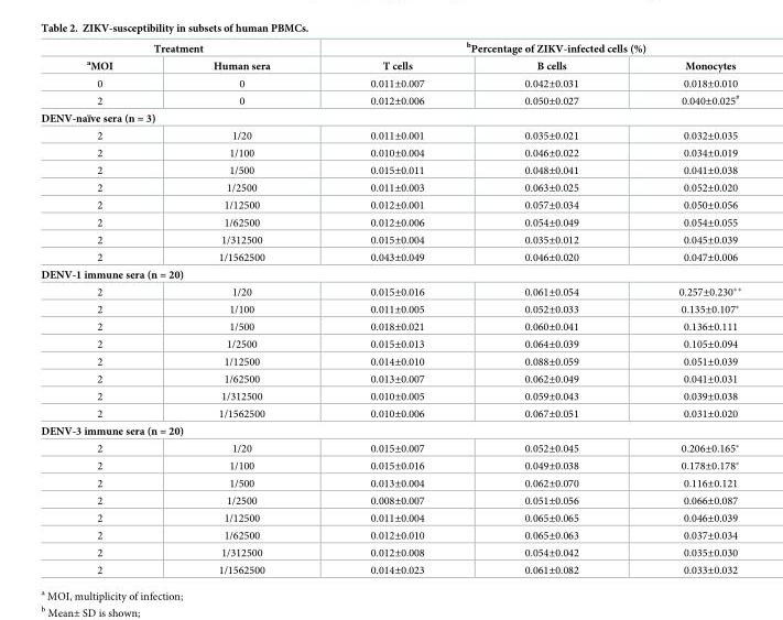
<table><thead><tr><td colspan="2">Treatment</td><td colspan="3"><sup>b</sup>Percentage of ZIKV-infected cells (%)</td></tr><tr><td><sup>a</sup>MOI</td><td>Human sera</td><td>T cells</td><td>B cells</td><td>Monocytes</td></tr></thead><tbody><tr><td>0</td><td>0</td><td>0.011±0.007</td><td>0.042±0.031</td><td>0.018±0.010</td></tr><tr><td>2</td><td>0</td><td>0.012±0.006</td><td>0.050±0.027</td><td>0.040±0.025<sup>#</sup></td></tr><tr><td colspan="5">DENV-naïve sera (n = 3)</td></tr><tr><td>2</td><td>1/20</td><td>0.011±0.001</td><td>0.035±0.021</td><td>0.032±0.035</td></tr><tr><td>2</td><td>1/100</td><td>0.010±0.004</td><td>0.046±0.022</td><td>0.034±0.019</td></tr><tr><td>2</td><td>1/500</td><td>0.015±0.011</td><td>0.048±0.041</td><td>0.041±0.038</td></tr><tr><td>2</td><td>1/2500</td><td>0.011±0.003</td><td>0.063±0.025</td><td>0.052±0.020</td></tr><tr><td>2</td><td>1/12500</td><td>0.012±0.001</td><td>0.057±0.034</td><td>0.050±0.056</td></tr><tr><td>2</td><td>1/62500</td><td>0.012±0.006</td><td>0.054±0.049</td><td>0.054±0.055</td></tr><tr><td>2</td><td>1/312500</td><td>0.015±0.004</td><td>0.035±0.012</td><td>0.045±0.039</td></tr><tr><td>2</td><td>1/1562500</td><td>0.043±0.049</td><td>0.046±0.020</td><td>0.047±0.006</td></tr><tr><td colspan="5">DENV-1 immune sera (n = 20)</td></tr><tr><td>2</td><td>1/20</td><td>0.015±0.016</td><td>0.061±0.054</td><td>0.257±0.230**</td></tr><tr><td>2</td><td>1/100</td><td>0.011±0.005</td><td>0.052±0.033</td><td>0.135±0.107*</td></tr><tr><td>2</td><td>1/500</td><td>0.018±0.021</td><td>0.060±0.041</td><td>0.136±0.111</td></tr><tr><td>2</td><td>1/2500</td><td>0.015±0.013</td><td>0.064±0.039</td><td>0.105±0.094</td></tr><tr><td>2</td><td>1/12500</td><td>0.014±0.010</td><td>0.088±0.059</td><td>0.051±0.039</td></tr><tr><td>2</td><td>1/62500</td><td>0.013±0.007</td><td>0.062±0.049</td><td>0.041±0.031</td></tr><tr><td>2</td><td>1/312500</td><td>0.010±0.005</td><td>0.059±0.043</td><td>0.039±0.038</td></tr><tr><td>2</td><td>1/1562500</td><td>0.010±0.006</td><td>0.067±0.051</td><td>0.031±0.020</td></tr><tr><td colspan="5">DENV-3 immune sera (n = 20)</td></tr><tr><td>2</td><td>1/20</td><td>0.015±0.007</td><td>0.052±0.045</td><td>0.206±0.165*</td></tr><tr><td>2</td><td>1/100</td><td>0.015±0.016</td><td>0.049±0.038</td><td>0.178±0.178*</td></tr><tr><td>2</td><td>1/500</td><td>0.013±0.004</td><td>0.062±0.070</td><td>0.116±0.121</td></tr><tr><td>2</td><td>1/2500</td><td>0.008±0.007</td><td>0.051±0.056</td><td>0.066±0.087</td></tr><tr><td>2</td><td>1/12500</td><td>0.011±0.004</td><td>0.065±0.065</td><td>0.046±0.039</td></tr><tr><td>2</td><td>1/62500</td><td>0.012±0.010</td><td>0.065±0.063</td><td>0.037±0.034</td></tr><tr><td>2</td><td>1/312500</td><td>0.012±0.008</td><td>0.054±0.042</td><td>0.035±0.030</td></tr><tr><td>2</td><td>1/1562500</td><td>0.014±0.023</td><td>0.061±0.082</td><td>0.033±0.032</td></tr></tbody></table>